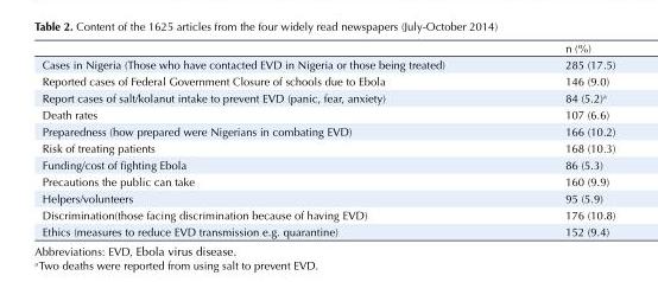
<table><thead><tr><td></td><td>n (%)</td></tr></thead><tbody><tr><td>Cases in Nigeria (Those who have contacted EVD in Nigeria or those being treated)</td><td>285 (17.5)</td></tr><tr><td>Reported cases of Federal Government Closure of schools due to Ebola</td><td>146 (9.0)</td></tr><tr><td>Report cases of salt/kolanut intake to prevent EVD (panic, fear, anxiety)</td><td>84 (5.2)<sup>a</sup></td></tr><tr><td>Death rates</td><td>107 (6.6)</td></tr><tr><td>Preparedness (how prepared were Nigerians in combating EVD)</td><td>166 (10.2)</td></tr><tr><td>Risk of treating patients</td><td>168 (10.3)</td></tr><tr><td>Funding/cost of fighting Ebola</td><td>86 (5.3)</td></tr><tr><td>Precautions the public can take</td><td>160 (9.9)</td></tr><tr><td>Helpers/volunteers</td><td>95 (5.9)</td></tr><tr><td>Discrimination(those facing discrimination because of having EVD)</td><td>176 (10.8)</td></tr><tr><td>Ethics (measures to reduce EVD transmission e.g. quarantine)</td><td>152 (9.4)</td></tr></tbody></table>